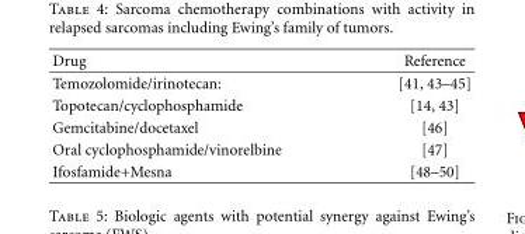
<table><thead><tr><td>Drug</td><td>Reference</td></tr></thead><tbody><tr><td>Temozolomide/irinotecan:</td><td>[41, 43–45]</td></tr><tr><td>Topotecan/cyclophosphamide</td><td>[14, 43]</td></tr><tr><td>Gemcitabine/docetaxel</td><td>[46]</td></tr><tr><td>Oral cyclophosphamide/vinorelbine</td><td>[47]</td></tr><tr><td>Ifosfamide+Mesna</td><td>[48–50]</td></tr></tbody></table>